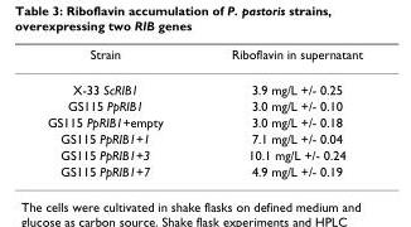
<table><thead><tr><td>Strain</td><td>Riboflavin in supernatant</td></tr></thead><tbody><tr><td>X-33 ScRIB1</td><td>3.9 mg/L +/- 0.25</td></tr><tr><td>GS115 PpRIB1</td><td>3.0 mg/L +/- 0.10</td></tr><tr><td>GS115 PpRIB1+empty</td><td>3.0 mg/L +/- 0.18</td></tr><tr><td>GS115 PpRIB1+1</td><td>7.1 mg/L +/- 0.04</td></tr><tr><td>GS115 PpRIB1+3</td><td>10.1 mg/L +/- 0.24</td></tr><tr><td>GS115 PpRIB1+7</td><td>4.9 mg/L +/- 0.19</td></tr></tbody></table>